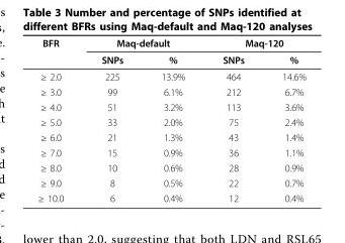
<table><thead><tr><td rowspan="2">BFR</td><td colspan="2">Maq-default</td><td colspan="2">Maq-120</td></tr><tr><td>SNPs</td><td>%</td><td>SNPs</td><td>%</td></tr></thead><tbody><tr><td>≥ 2.0</td><td>225</td><td>13.9%</td><td>464</td><td>14.6%</td></tr><tr><td>≥ 3.0</td><td>99</td><td>6.1%</td><td>212</td><td>6.7%</td></tr><tr><td>≥ 4.0</td><td>51</td><td>3.2%</td><td>113</td><td>3.6%</td></tr><tr><td>≥ 5.0</td><td>33</td><td>2.0%</td><td>75</td><td>2.4%</td></tr><tr><td>≥ 6.0</td><td>21</td><td>1.3%</td><td>43</td><td>1.4%</td></tr><tr><td>≥ 7.0</td><td>15</td><td>0.9%</td><td>36</td><td>1.1%</td></tr><tr><td>≥ 8.0</td><td>10</td><td>0.6%</td><td>28</td><td>0.9%</td></tr><tr><td>≥ 9.0</td><td>8</td><td>0.5%</td><td>22</td><td>0.7%</td></tr><tr><td>≥ 10.0</td><td>6</td><td>0.4%</td><td>12</td><td>0.4%</td></tr></tbody></table>